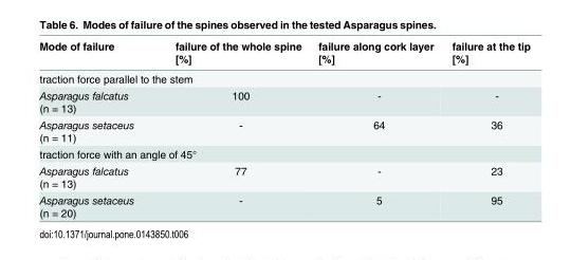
<table><thead><tr><td>Mode of failure</td><td>failure of the whole spine [%]</td><td>failure along cork layer [%]</td><td>failure at the tip [%]</td></tr></thead><tbody><tr><td colspan="4">traction force parallel to the stem</td></tr><tr><td>Asparagus falcatus (n = 13)</td><td>100</td><td>-</td><td>-</td></tr><tr><td>Asparagus setaceus (n = 11)</td><td>-</td><td>64</td><td>36</td></tr><tr><td colspan="4">traction force with an angle of 45°</td></tr><tr><td>Asparagus falcatus (n = 13)</td><td>77</td><td>-</td><td>23</td></tr><tr><td>Asparagus setaceus (n = 20)</td><td>-</td><td>5</td><td>95</td></tr></tbody></table>